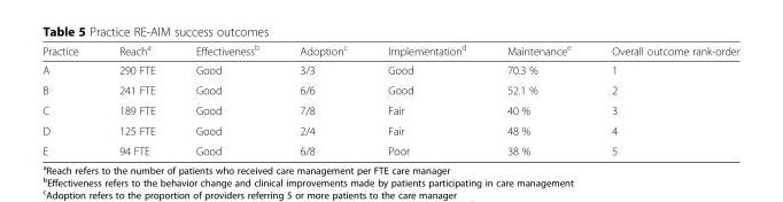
<table><thead><tr><td>Practice</td><td>Reach<sup>a</sup></td><td>Effectiveness<sup>b</sup></td><td>Adoption<sup>c</sup></td><td>Implementation<sup>d</sup></td><td>Maintenance<sup>e</sup></td><td>Overall outcome rank-order</td></tr></thead><tbody><tr><td>A</td><td>290 FTE</td><td>Good</td><td>3/3</td><td>Good</td><td>70.3 %</td><td>1</td></tr><tr><td>B</td><td>241 FTE</td><td>Good</td><td>6/6</td><td>Good</td><td>52.1 %</td><td>2</td></tr><tr><td>C</td><td>189 FTE</td><td>Good</td><td>7/8</td><td>Fair</td><td>40 %</td><td>3</td></tr><tr><td>D</td><td>125 FTE</td><td>Good</td><td>2/4</td><td>Fair</td><td>48 %</td><td>4</td></tr><tr><td>E</td><td>94 FTE</td><td>Good</td><td>6/8</td><td>Poor</td><td>38 %</td><td>5</td></tr></tbody></table>